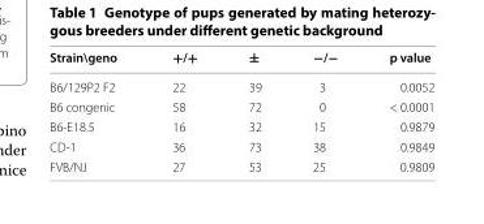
<table><thead><tr><td>Strain\geno</td><td>+/+</td><td>±</td><td>−/−</td><td>p value</td></tr></thead><tbody><tr><td>B6/129P2 F2</td><td>22</td><td>39</td><td>3</td><td>0.0052</td></tr><tr><td>B6 congenic</td><td>58</td><td>72</td><td>0</td><td>&lt; 0.0001</td></tr><tr><td>B6‑E18.5</td><td>16</td><td>32</td><td>15</td><td>0.9879</td></tr><tr><td>CD‑1</td><td>36</td><td>73</td><td>38</td><td>0.9849</td></tr><tr><td>FVB/NJ</td><td>27</td><td>53</td><td>25</td><td>0.9809</td></tr></tbody></table>